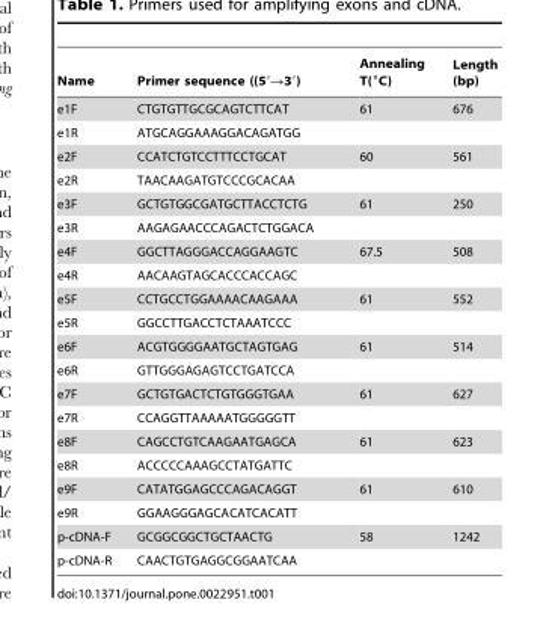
<table><thead><tr><td>Name</td><td>Primer sequence ((5′→3′)</td><td>Annealing T(°C)</td><td>Length (bp)</td></tr></thead><tbody><tr><td>e1F</td><td>CTGTGTTGCGCAGTCTTCAT</td><td>61</td><td>676</td></tr><tr><td>e1R</td><td>ATGCAGGAAAGGACAGATGG</td><td></td><td></td></tr><tr><td>e2F</td><td>CCATCTGTCCTTTCCTGCAT</td><td>60</td><td>561</td></tr><tr><td>e2R</td><td>TAACAAGATGTCCCGCACAA</td><td></td><td></td></tr><tr><td>e3F</td><td>GCTGTGGCGATGCTTACCTCTG</td><td>61</td><td>250</td></tr><tr><td>e3R</td><td>AAGAGAACCCAGACTCTGGACA</td><td></td><td></td></tr><tr><td>e4F</td><td>GGCTTAGGGACCAGGAAGTC</td><td>67.5</td><td>508</td></tr><tr><td>e4R</td><td>AACAAGTAGCACCCACCAGC</td><td></td><td></td></tr><tr><td>e5F</td><td>CCTGCCTGGAAAACAAGAAA</td><td>61</td><td>552</td></tr><tr><td>e5R</td><td>GGCCTTGACCTCTAAATCCC</td><td></td><td></td></tr><tr><td>e6F</td><td>ACGTGGGGAATGCTAGTGAG</td><td>61</td><td>514</td></tr><tr><td>e6R</td><td>GTTGGGAGAGTCCTGATCCA</td><td></td><td></td></tr><tr><td>e7F</td><td>GCTGTGACTCTGTGGGTGAA</td><td>61</td><td>627</td></tr><tr><td>e7R</td><td>CCAGGTTAAAAATGGGGGTT</td><td></td><td></td></tr><tr><td>e8F</td><td>CAGCCTGTCAAGAATGAGCA</td><td>61</td><td>623</td></tr><tr><td>e8R</td><td>ACCCCCAAAGCCTATGATTC</td><td></td><td></td></tr><tr><td>e9F</td><td>CATATGGAGCCCAGACAGGT</td><td>61</td><td>610</td></tr><tr><td>e9R</td><td>GGAAGGGAGCACATCACATT</td><td></td><td></td></tr><tr><td>p-cDNA-F</td><td>GCGGCGGCTGCTAACTG</td><td>58</td><td>1242</td></tr><tr><td>p-cDNA-R</td><td>CAACTGTGAGGCGGAATCAA</td><td></td><td></td></tr></tbody></table>